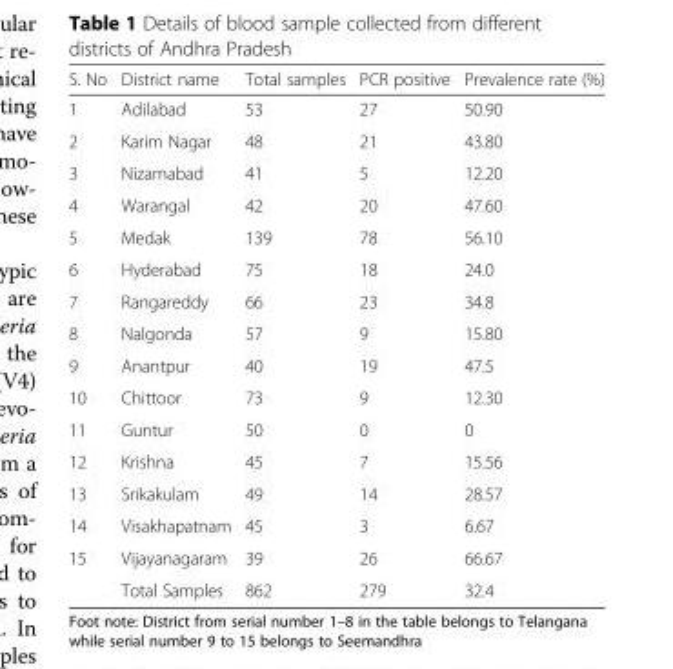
<table><thead><tr><td>S. No</td><td>District name</td><td>Total samples</td><td>PCR positive</td><td>Prevalence rate (%)</td></tr></thead><tbody><tr><td>1</td><td>Adilabad</td><td>53</td><td>27</td><td>50.90</td></tr><tr><td>2</td><td>Karim Nagar</td><td>48</td><td>21</td><td>43.80</td></tr><tr><td>3</td><td>Nizamabad</td><td>41</td><td>5</td><td>12.20</td></tr><tr><td>4</td><td>Warangal</td><td>42</td><td>20</td><td>47.60</td></tr><tr><td>5</td><td>Medak</td><td>139</td><td>78</td><td>56.10</td></tr><tr><td>6</td><td>Hyderabad</td><td>75</td><td>18</td><td>24.0</td></tr><tr><td>7</td><td>Rangareddy</td><td>66</td><td>23</td><td>34.8</td></tr><tr><td>8</td><td>Nalgonda</td><td>57</td><td>9</td><td>15.80</td></tr><tr><td>9</td><td>Anantpur</td><td>40</td><td>19</td><td>47.5</td></tr><tr><td>10</td><td>Chittoor</td><td>73</td><td>9</td><td>12.30</td></tr><tr><td>11</td><td>Guntur</td><td>50</td><td>0</td><td>0</td></tr><tr><td>12</td><td>Krishna</td><td>45</td><td>7</td><td>15.56</td></tr><tr><td>13</td><td>Srikakulam</td><td>49</td><td>14</td><td>28.57</td></tr><tr><td>14</td><td>Visakhapatnam</td><td>45</td><td>3</td><td>6.67</td></tr><tr><td rowspan="2">15</td><td>Vijayanagaram</td><td>39</td><td>26</td><td>66.67</td></tr><tr><td>Total Samples</td><td>862</td><td>279</td><td>32.4</td></tr></tbody></table>